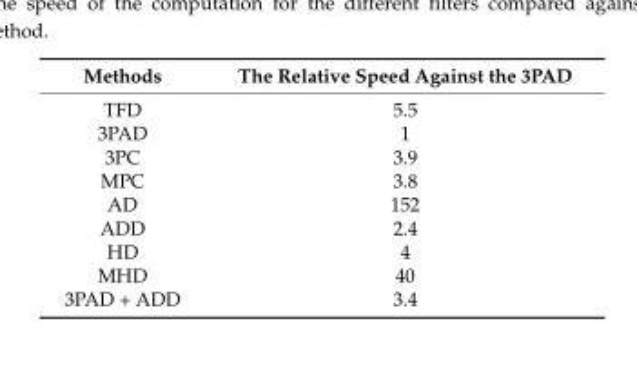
<table><thead><tr><td>Methods</td><td>The Relative Speed Against the 3PAD</td></tr></thead><tbody><tr><td>TFD</td><td>5.5</td></tr><tr><td>3PAD</td><td>1</td></tr><tr><td>3PC</td><td>3.9</td></tr><tr><td>MPC</td><td>3.8</td></tr><tr><td>AD</td><td>152</td></tr><tr><td>ADD</td><td>2.4</td></tr><tr><td>HD</td><td>4</td></tr><tr><td>MHD</td><td>40</td></tr><tr><td>3PAD + ADD</td><td>3.4</td></tr></tbody></table>